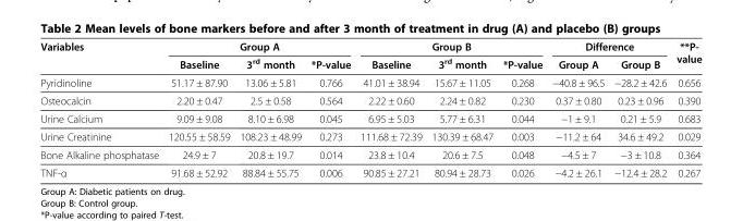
<table><thead><tr><td rowspan="2">Variables</td><td colspan="3">Group A</td><td colspan="3">Group B</td><td colspan="2">Difference</td><td rowspan="2">**P- value</td></tr><tr><td>Baseline</td><td>3<sup>rd</sup> month</td><td>*P-value</td><td>Baseline</td><td>3<sup>rd</sup> month</td><td>*P-value</td><td>Group A</td><td>Group B</td></tr></thead><tbody><tr><td>Pyridinoline</td><td>51.17 ± 87.90</td><td>13.06 ± 5.81</td><td>0.766</td><td>41.01 ± 38.94</td><td>15.67 ± 11.05</td><td>0.268</td><td>−40.8 ± 96.5</td><td>−28.2 ± 42.6</td><td>0.656</td></tr><tr><td>Osteocalcin</td><td>2.20 ± 0.47</td><td>2.5 ± 0.58</td><td>0.564</td><td>2.22 ± 0.60</td><td>2.24 ± 0.82</td><td>0.230</td><td>0.37 ± 0.80</td><td>0.23 ± 0.96</td><td>0.390</td></tr><tr><td>Urine Calcium</td><td>9.09 ± 9.08</td><td>8.10 ± 6.98</td><td>0.045</td><td>6.95 ± 5.03</td><td>5.77 ± 6.31</td><td>0.044</td><td>−1 ± 9.1</td><td>0.21 ± 5.9</td><td>0.683</td></tr><tr><td>Urine Creatinine</td><td>120.55 ± 58.59</td><td>108.23 ± 48.99</td><td>0.273</td><td>111.68 ± 72.39</td><td>130.39 ± 68.47</td><td>0.003</td><td>−11.2 ± 64</td><td>34.6 ± 49.2</td><td>0.029</td></tr><tr><td>Bone Alkaline phosphatase</td><td>24.9 ± 7</td><td>20.8 ± 19.7</td><td>0.014</td><td>23.8 ± 10.4</td><td>20.6 ± 7.5</td><td>0.048</td><td>−4.5 ± 7</td><td>−3 ± 10.8</td><td>0.364</td></tr><tr><td>TNF-α</td><td>91.68 ± 52.92</td><td>88.84 ± 55.75</td><td>0.006</td><td>90.85 ± 27.21</td><td>80.94 ± 28.73</td><td>0.026</td><td>−4.2 ± 26.1</td><td>−12.4 ± 28.2</td><td>0.267</td></tr></tbody></table>